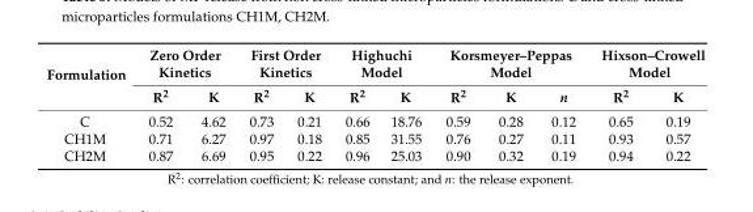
<table><thead><tr><td rowspan="2">Formulation</td><td colspan="2">Zero Order Kinetics</td><td colspan="2">First Order Kinetics</td><td colspan="2">Highuchi Model</td><td colspan="3">Korsmeyer–Peppas Model</td><td colspan="2">Hixson–Crowell Model</td></tr><tr><td>R<sup>2</sup></td><td>K</td><td>R<sup>2</sup></td><td>K</td><td>R<sup>2</sup></td><td>K</td><td>R<sup>2</sup></td><td>K</td><td>n</td><td>R<sup>2</sup></td><td>K</td></tr></thead><tbody><tr><td>C</td><td>0.52</td><td>4.62</td><td>0.73</td><td>0.21</td><td>0.66</td><td>18.76</td><td>0.59</td><td>0.28</td><td>0.12</td><td>0.65</td><td>0.19</td></tr><tr><td>CH1M</td><td>0.71</td><td>6.27</td><td>0.97</td><td>0.18</td><td>0.85</td><td>31.55</td><td>0.76</td><td>0.27</td><td>0.11</td><td>0.93</td><td>0.57</td></tr><tr><td>CH2M</td><td>0.87</td><td>6.69</td><td>0.95</td><td>0.22</td><td>0.96</td><td>25.03</td><td>0.90</td><td>0.32</td><td>0.19</td><td>0.94</td><td>0.22</td></tr></tbody></table>